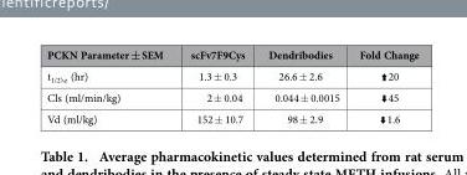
<table><thead><tr><td>PCKN Parameter ± SEM</td><td>scFv7F9Cys</td><td>Dendribodies</td><td>Fold Change</td></tr></thead><tbody><tr><td>t<sub>1/2λz</sub> (hr)</td><td>1.3 ± 0.3</td><td>26.6 ± 2.6</td><td>⬆20</td></tr><tr><td>Cls (ml/min/kg)</td><td>2 ± 0.04</td><td>0.044 ± 0.0015</td><td>⬇45</td></tr><tr><td>Vd (ml/kg)</td><td>152 ± 10.7</td><td>98 ± 2.9</td><td>⬇1.6</td></tr></tbody></table>